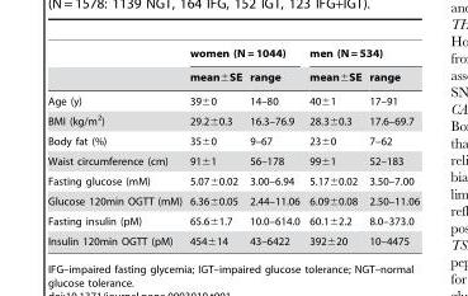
<table><thead><tr><td rowspan="2"></td><td colspan="2">women (N = 1044)</td><td colspan="2">men (N = 534)</td></tr><tr><td>mean±SE</td><td>range</td><td>mean±SE</td><td>range</td></tr></thead><tbody><tr><td>Age (y)</td><td>39±0</td><td>14–80</td><td>40±1</td><td>17–91</td></tr><tr><td>BMI (kg/m<sup>2</sup>)</td><td>29.2±0.3</td><td>16.3–76.9</td><td>28.3±0.3</td><td>17.6–69.7</td></tr><tr><td>Body fat (%)</td><td>35±0</td><td>9–67</td><td>23±0</td><td>7–62</td></tr><tr><td>Waist circumference (cm)</td><td>91±1</td><td>56–178</td><td>99±1</td><td>52–183</td></tr><tr><td>Fasting glucose (mM)</td><td>5.07±0.02</td><td>3.00–6.94</td><td>5.17±0.02</td><td>3.50–7.00</td></tr><tr><td>Glucose 120min OGTT (mM)</td><td>6.36±0.05</td><td>2.44–11.06</td><td>6.09±0.08</td><td>2.50–11.06</td></tr><tr><td>Fasting insulin (pM)</td><td>65.6±1.7</td><td>10.0–614.0</td><td>60.1±2.2</td><td>8.0–373.0</td></tr><tr><td>Insulin 120min OGTT (pM)</td><td>454±14</td><td>43–6422</td><td>392±20</td><td>10–4475</td></tr></tbody></table>